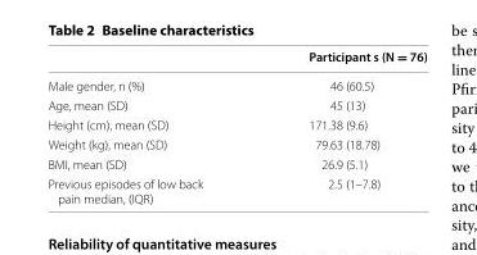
<table><thead><tr><td></td><td>Participant s (N = 76)</td></tr></thead><tbody><tr><td>Male gender, n (%)</td><td>46 (60.5)</td></tr><tr><td>Age, mean (SD)</td><td>45 (13)</td></tr><tr><td>Height (cm), mean (SD)</td><td>171.38 (9.6)</td></tr><tr><td>Weight (kg), mean (SD)</td><td>79.63 (18.78)</td></tr><tr><td>BMI, mean (SD)</td><td>26.9 (5.1)</td></tr><tr><td>Previous episodes of low back pain median, (IQR)</td><td>2.5 (1–7.8)</td></tr></tbody></table>